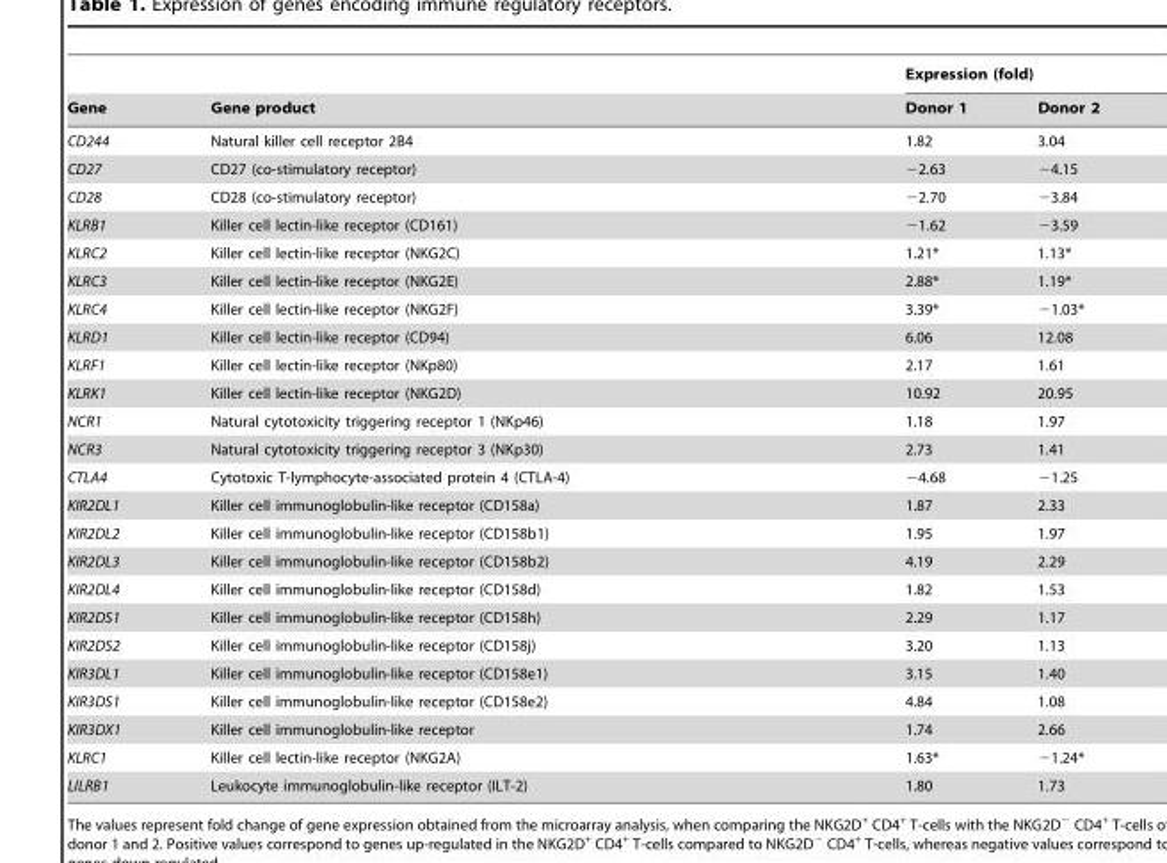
<table><thead><tr><td rowspan="2">Gene</td><td rowspan="2">Gene product</td><td colspan="2">Expression (fold)</td></tr><tr><td>Donor 1</td><td>Donor 2</td></tr></thead><tbody><tr><td>CD244</td><td>Natural killer cell receptor 2B4</td><td>1.82</td><td>3.04</td></tr><tr><td>CD27</td><td>CD27 (co-stimulatory receptor)</td><td>−2.63</td><td>−4.15</td></tr><tr><td>CD28</td><td>CD28 (co-stimulatory receptor)</td><td>−2.70</td><td>−3.84</td></tr><tr><td>KLRB1</td><td>Killer cell lectin-like receptor (CD161)</td><td>−1.62</td><td>−3.59</td></tr><tr><td>KLRC2</td><td>Killer cell lectin-like receptor (NKG2C)</td><td>1.21*</td><td>1.13*</td></tr><tr><td>KLRC3</td><td>Killer cell lectin-like receptor (NKG2E)</td><td>2.88*</td><td>1.19*</td></tr><tr><td>KLRC4</td><td>Killer cell lectin-like receptor (NKG2F)</td><td>3.39*</td><td>−1.03*</td></tr><tr><td>KLRD1</td><td>Killer cell lectin-like receptor (CD94)</td><td>6.06</td><td>12.08</td></tr><tr><td>KLRF1</td><td>Killer cell lectin-like receptor (NKp80)</td><td>2.17</td><td>1.61</td></tr><tr><td>KLRK1</td><td>Killer cell lectin-like receptor (NKG2D)</td><td>10.92</td><td>20.95</td></tr><tr><td>NCR1</td><td>Natural cytotoxicity triggering receptor 1 (NKp46)</td><td>1.18</td><td>1.97</td></tr><tr><td>NCR3</td><td>Natural cytotoxicity triggering receptor 3 (NKp30)</td><td>2.73</td><td>1.41</td></tr><tr><td>CTLA4</td><td>Cytotoxic T-lymphocyte-associated protein 4 (CTLA-4)</td><td>−4.68</td><td>−1.25</td></tr><tr><td>KIR2DL1</td><td>Killer cell immunoglobulin-like receptor (CD158a)</td><td>1.87</td><td>2.33</td></tr><tr><td>KIR2DL2</td><td>Killer cell immunoglobulin-like receptor (CD158b1)</td><td>1.95</td><td>1.97</td></tr><tr><td>KIR2DL3</td><td>Killer cell immunoglobulin-like receptor (CD158b2)</td><td>4.19</td><td>2.29</td></tr><tr><td>KIR2DL4</td><td>Killer cell immunoglobulin-like receptor (CD158d)</td><td>1.82</td><td>1.53</td></tr><tr><td>KIR2DS1</td><td>Killer cell immunoglobulin-like receptor (CD158h)</td><td>2.29</td><td>1.17</td></tr><tr><td>KIR2DS2</td><td>Killer cell immunoglobulin-like receptor (CD158j)</td><td>3.20</td><td>1.13</td></tr><tr><td>KIR3DL1</td><td>Killer cell immunoglobulin-like receptor (CD158e1)</td><td>3.15</td><td>1.40</td></tr><tr><td>KIR3DS1</td><td>Killer cell immunoglobulin-like receptor (CD158e2)</td><td>4.84</td><td>1.08</td></tr><tr><td>KIR3DX1</td><td>Killer cell immunoglobulin-like receptor</td><td>1.74</td><td>2.66</td></tr><tr><td>KLRC1</td><td>Killer cell lectin-like receptor (NKG2A)</td><td>1.63*</td><td>−1.24*</td></tr><tr><td>LILRB1</td><td>Leukocyte immunoglobulin-like receptor (ILT-2)</td><td>1.80</td><td>1.73</td></tr></tbody></table>